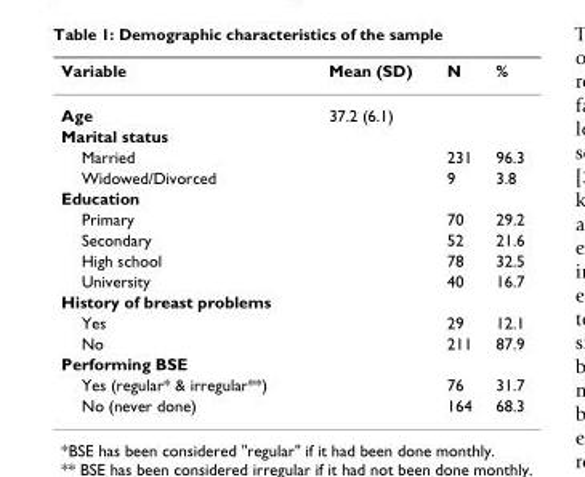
<table><thead><tr><td>Variable</td><td>Mean (SD)</td><td>N</td><td>%</td></tr></thead><tbody><tr><td>Age</td><td>37.2 (6.1)</td><td></td><td></td></tr><tr><td colspan="4">Marital status</td></tr><tr><td>Married</td><td></td><td>231</td><td>96.3</td></tr><tr><td>Widowed/Divorced</td><td></td><td>9</td><td>3.8</td></tr><tr><td colspan="4">Education</td></tr><tr><td>Primary</td><td></td><td>70</td><td>29.2</td></tr><tr><td>Secondary</td><td></td><td>52</td><td>21.6</td></tr><tr><td>High school</td><td></td><td>78</td><td>32.5</td></tr><tr><td>University</td><td></td><td>40</td><td>16.7</td></tr><tr><td colspan="4">History of breast problems</td></tr><tr><td>Yes</td><td></td><td>29</td><td>12.1</td></tr><tr><td>No</td><td></td><td>211</td><td>87.9</td></tr><tr><td colspan="4">Performing BSE</td></tr><tr><td>Yes (regular* &amp; irregular**)</td><td></td><td>76</td><td>31.7</td></tr><tr><td>No (never done)</td><td></td><td>164</td><td>68.3</td></tr></tbody></table>